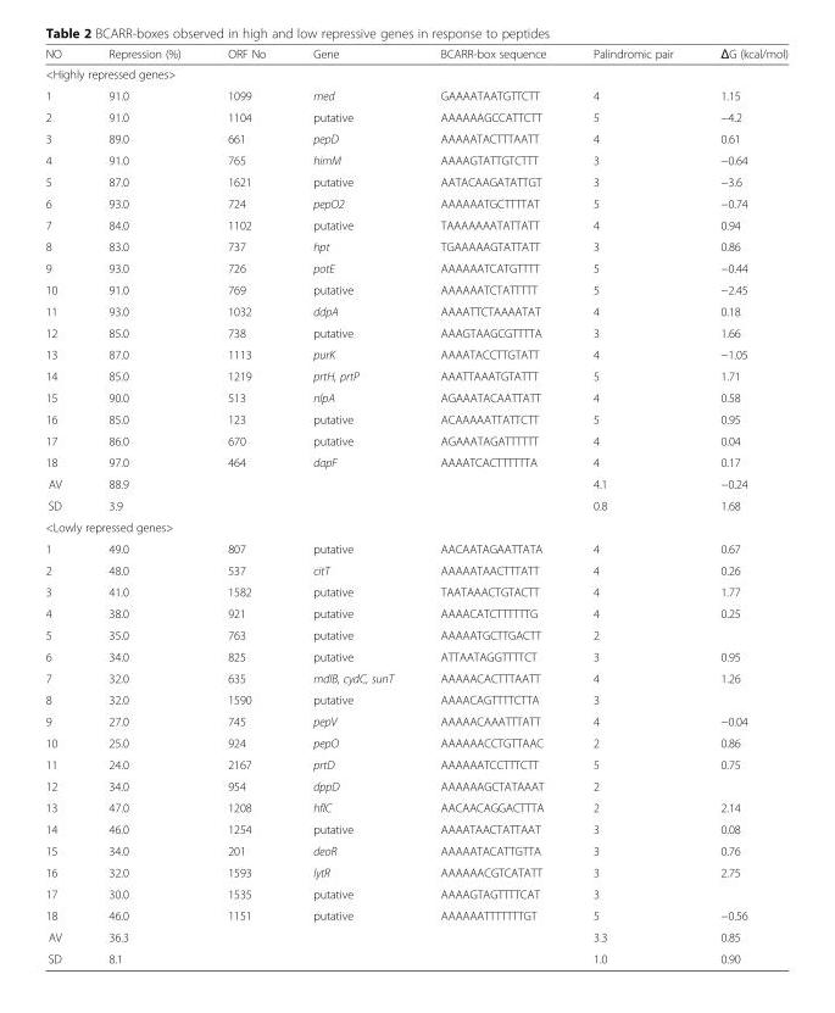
<table><thead><tr><td>NO</td><td>Repression (%)</td><td>ORF No</td><td>Gene</td><td>BCARR-box sequence</td><td>Palindromic pair</td><td>ΔG (kcal/mol)</td></tr></thead><tbody><tr><td colspan="7">&lt;Highly repressed genes&gt;</td></tr><tr><td>1</td><td>91.0</td><td>1099</td><td>med</td><td>GAAAATAATGTTCTT</td><td>4</td><td>1.15</td></tr><tr><td>2</td><td>91.0</td><td>1104</td><td>putative</td><td>AAAAAAGCCATTCTT</td><td>5</td><td>−4.2</td></tr><tr><td>3</td><td>89.0</td><td>661</td><td>pepD</td><td>AAAAATACTTTAATT</td><td>4</td><td>0.61</td></tr><tr><td>4</td><td>91.0</td><td>765</td><td>himM</td><td>AAAAGTATTGTCTTT</td><td>3</td><td>−0.64</td></tr><tr><td>5</td><td>87.0</td><td>1621</td><td>putative</td><td>AATACAAGATATTGT</td><td>3</td><td>−3.6</td></tr><tr><td>6</td><td>93.0</td><td>724</td><td>pepO2</td><td>AAAAAATGCTTTTAT</td><td>5</td><td>−0.74</td></tr><tr><td>7</td><td>84.0</td><td>1102</td><td>putative</td><td>TAAAAAAATATTATT</td><td>4</td><td>0.94</td></tr><tr><td>8</td><td>83.0</td><td>737</td><td>hpt</td><td>TGAAAAAGTATTATT</td><td>3</td><td>0.86</td></tr><tr><td>9</td><td>93.0</td><td>726</td><td>potE</td><td>AAAAAATCATGTTTT</td><td>5</td><td>−0.44</td></tr><tr><td>10</td><td>91.0</td><td>769</td><td>putative</td><td>AAAAAATCTATTTTT</td><td>5</td><td>−2.45</td></tr><tr><td>11</td><td>93.0</td><td>1032</td><td>ddpA</td><td>AAAATTCTAAAATAT</td><td>4</td><td>0.18</td></tr><tr><td>12</td><td>85.0</td><td>738</td><td>putative</td><td>AAAGTAAGCGTTTTA</td><td>3</td><td>1.66</td></tr><tr><td>13</td><td>87.0</td><td>1113</td><td>purK</td><td>AAAATACCTTGTATT</td><td>4</td><td>−1.05</td></tr><tr><td>14</td><td>85.0</td><td>1219</td><td>prtH, prtP</td><td>AAATTAAATGTATTT</td><td>5</td><td>1.71</td></tr><tr><td>15</td><td>90.0</td><td>513</td><td>nlpA</td><td>AGAAATACAATTATT</td><td>4</td><td>0.58</td></tr><tr><td>16</td><td>85.0</td><td>123</td><td>putative</td><td>ACAAAAATTATTCTT</td><td>5</td><td>0.95</td></tr><tr><td>17</td><td>86.0</td><td>670</td><td>putative</td><td>AGAAATAGATTTTTT</td><td>4</td><td>0.04</td></tr><tr><td>18</td><td>97.0</td><td>464</td><td>dapF</td><td>AAAATCACTTTTTTA</td><td>4</td><td>0.17</td></tr><tr><td>AV</td><td>88.9</td><td></td><td></td><td></td><td>4.1</td><td>−0.24</td></tr><tr><td>SD</td><td>3.9</td><td></td><td></td><td></td><td>0.8</td><td>1.68</td></tr><tr><td colspan="7">&lt;Lowly repressed genes&gt;</td></tr><tr><td>1</td><td>49.0</td><td>807</td><td>putative</td><td>AACAATAGAATTATA</td><td>4</td><td>0.67</td></tr><tr><td>2</td><td>48.0</td><td>537</td><td>citT</td><td>AAAAATAACTTTATT</td><td>4</td><td>0.26</td></tr><tr><td>3</td><td>41.0</td><td>1582</td><td>putative</td><td>TAATAAACTGTACTT</td><td>4</td><td>1.77</td></tr><tr><td>4</td><td>38.0</td><td>921</td><td>putative</td><td>AAAACATCTTTTTTG</td><td>4</td><td>0.25</td></tr><tr><td>5</td><td>35.0</td><td>763</td><td>putative</td><td>AAAAATGCTTGACTT</td><td>2</td><td></td></tr><tr><td>6</td><td>34.0</td><td>825</td><td>putative</td><td>ATTAATAGGTTTTCT</td><td>3</td><td>0.95</td></tr><tr><td>7</td><td>32.0</td><td>635</td><td>mdlB, cydC, sunT</td><td>AAAAACACTTTAATT</td><td>4</td><td>1.26</td></tr><tr><td>8</td><td>32.0</td><td>1590</td><td>putative</td><td>AAAACAGTTTTCTTA</td><td>3</td><td></td></tr><tr><td>9</td><td>27.0</td><td>745</td><td>pepV</td><td>AAAAACAAATTTATT</td><td>4</td><td>−0.04</td></tr><tr><td>10</td><td>25.0</td><td>924</td><td>pepO</td><td>AAAAAACCTGTTAAC</td><td>2</td><td>0.86</td></tr><tr><td>11</td><td>24.0</td><td>2167</td><td>prtD</td><td>AAAAAATCCTTTCTT</td><td>5</td><td>0.75</td></tr><tr><td>12</td><td>34.0</td><td>954</td><td>dppD</td><td>AAAAAAGCTATAAAT</td><td>2</td><td></td></tr><tr><td>13</td><td>47.0</td><td>1208</td><td>hflC</td><td>AACAACAGGACTTTA</td><td>2</td><td>2.14</td></tr><tr><td>14</td><td>46.0</td><td>1254</td><td>putative</td><td>AAAATAACTATTAAT</td><td>3</td><td>0.08</td></tr><tr><td>15</td><td>34.0</td><td>201</td><td>deoR</td><td>AAAAATACATTGTTA</td><td>3</td><td>0.76</td></tr><tr><td>16</td><td>32.0</td><td>1593</td><td>lytR</td><td>AAAAAACGTCATATT</td><td>3</td><td>2.75</td></tr><tr><td>17</td><td>30.0</td><td>1535</td><td>putative</td><td>AAAAGTAGTTTTCAT</td><td>3</td><td></td></tr><tr><td>18</td><td>46.0</td><td>1151</td><td>putative</td><td>AAAAAATTTTTTTGT</td><td>5</td><td>−0.56</td></tr><tr><td>AV</td><td>36.3</td><td></td><td></td><td></td><td>3.3</td><td>0.85</td></tr><tr><td>SD</td><td>8.1</td><td></td><td></td><td></td><td>1.0</td><td>0.90</td></tr></tbody></table>